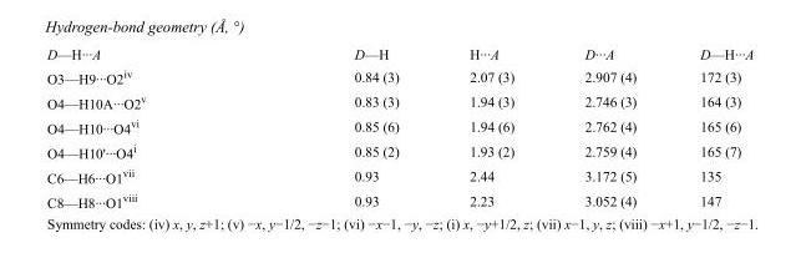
<table><tbody><tr><td>D—H···A</td><td>D—H</td><td>H···A</td><td>D···A</td><td>D—H···A</td></tr><tr><td>O3—H9···O2<sup>iv</sup></td><td>0.84 (3)</td><td>2.07 (3)</td><td>2.907 (4)</td><td>172 (3)</td></tr><tr><td>O4—H10A···O2<sup>v</sup></td><td>0.83 (3)</td><td>1.94 (3)</td><td>2.746 (3)</td><td>164 (3)</td></tr><tr><td>O4—H10···O4<sup>vi</sup></td><td>0.85 (6)</td><td>1.94 (6)</td><td>2.762 (4)</td><td>165 (6)</td></tr><tr><td>O4—H10&#x27;···O4<sup>i</sup></td><td>0.85 (2)</td><td>1.93 (2)</td><td>2.759 (4)</td><td>165 (7)</td></tr><tr><td>C6—H6···O1<sup>vii</sup></td><td>0.93</td><td>2.44</td><td>3.172 (5)</td><td>135</td></tr><tr><td>C8—H8···O1<sup>viii</sup></td><td>0.93</td><td>2.23</td><td>3.052 (4)</td><td>147</td></tr></tbody></table>